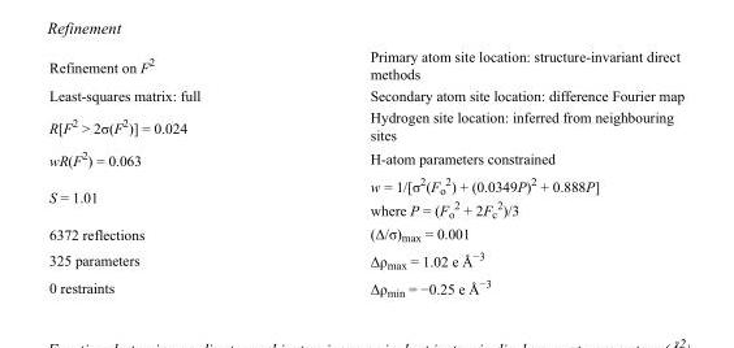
<table><tbody><tr><td>Refinement on F<sup>2</sup></td><td>Primary atom site location: structure-invariant direct methods</td></tr><tr><td>Least-squares matrix: full</td><td>Secondary atom site location: difference Fourier map</td></tr><tr><td>R[F<sup>2</sup> &gt; 2σ(F<sup>2</sup>)] = 0.024</td><td>Hydrogen site location: inferred from neighbouring sites</td></tr><tr><td>wR(F<sup>2</sup>) = 0.063</td><td>H-atom parameters constrained</td></tr><tr><td>S = 1.01</td><td>w = 1/[σ<sup>2</sup>(F<sub>o</sub> <sup>2</sup>) + (0.0349P)<sup>2</sup> + 0.888P] where P = (F<sub>o</sub> <sup>2</sup> + 2F<sub>c</sub> <sup>2</sup>)/3</td></tr><tr><td>6372 reflections</td><td>(Δ/σ)<sub>max</sub> = 0.001</td></tr><tr><td>325 parameters</td><td>Δρ<sub>max</sub> = 1.02 e Å<sup>−3</sup></td></tr><tr><td>0 restraints</td><td>Δρ<sub>min</sub> = −0.25 e Å<sup>−3</sup></td></tr></tbody></table>